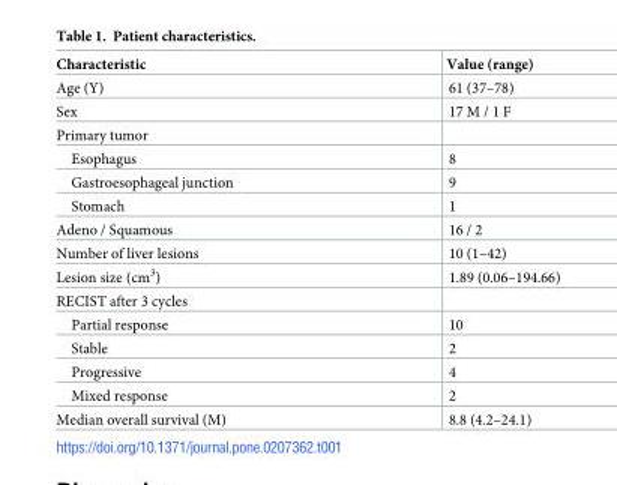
<table><thead><tr><td>Characteristic</td><td>Value (range)</td></tr></thead><tbody><tr><td>Age (Y)</td><td>61 (37–78)</td></tr><tr><td>Sex</td><td>17 M / 1 F</td></tr><tr><td colspan="2">Primary tumor</td></tr><tr><td>Esophagus</td><td>8</td></tr><tr><td>Gastroesophageal junction</td><td>9</td></tr><tr><td>Stomach</td><td>1</td></tr><tr><td>Adeno / Squamous</td><td>16 / 2</td></tr><tr><td>Number of liver lesions</td><td>10 (1–42)</td></tr><tr><td>Lesion size (cm<sup>3</sup>)</td><td>1.89 (0.06–194.66)</td></tr><tr><td colspan="2">RECIST after 3 cycles</td></tr><tr><td>Partial response</td><td>10</td></tr><tr><td>Stable</td><td>2</td></tr><tr><td>Progressive</td><td>4</td></tr><tr><td>Mixed response</td><td>2</td></tr><tr><td>Median overall survival (M)</td><td>8.8 (4.2–24.1)</td></tr></tbody></table>